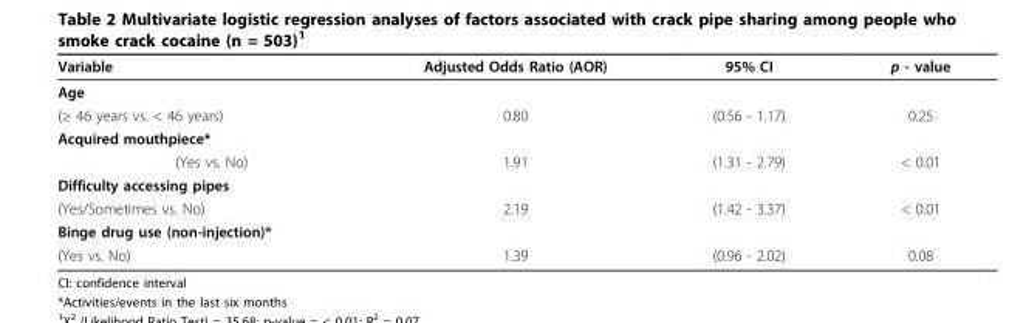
<table><thead><tr><td>Variable</td><td>Adjusted Odds Ratio (AOR)</td><td>95% CI</td><td>p - value</td></tr></thead><tbody><tr><td colspan="4">Age</td></tr><tr><td>(≥ 46 years vs. &lt; 46 years)</td><td>0.80</td><td>(0.56 - 1.17)</td><td>0.25</td></tr><tr><td colspan="4">Acquired mouthpiece*</td></tr><tr><td>(Yes vs. No)</td><td>1.91</td><td>(1.31 - 2.79)</td><td>&lt; 0.01</td></tr><tr><td colspan="4">Difficulty accessing pipes</td></tr><tr><td>(Yes/Sometimes vs. No)</td><td>2.19</td><td>(1.42 - 3.37)</td><td>&lt; 0.01</td></tr><tr><td colspan="4">Binge drug use (non-injection)*</td></tr><tr><td>(Yes vs. No)</td><td>1.39</td><td>(0.96 - 2.02)</td><td>0.08</td></tr></tbody></table>